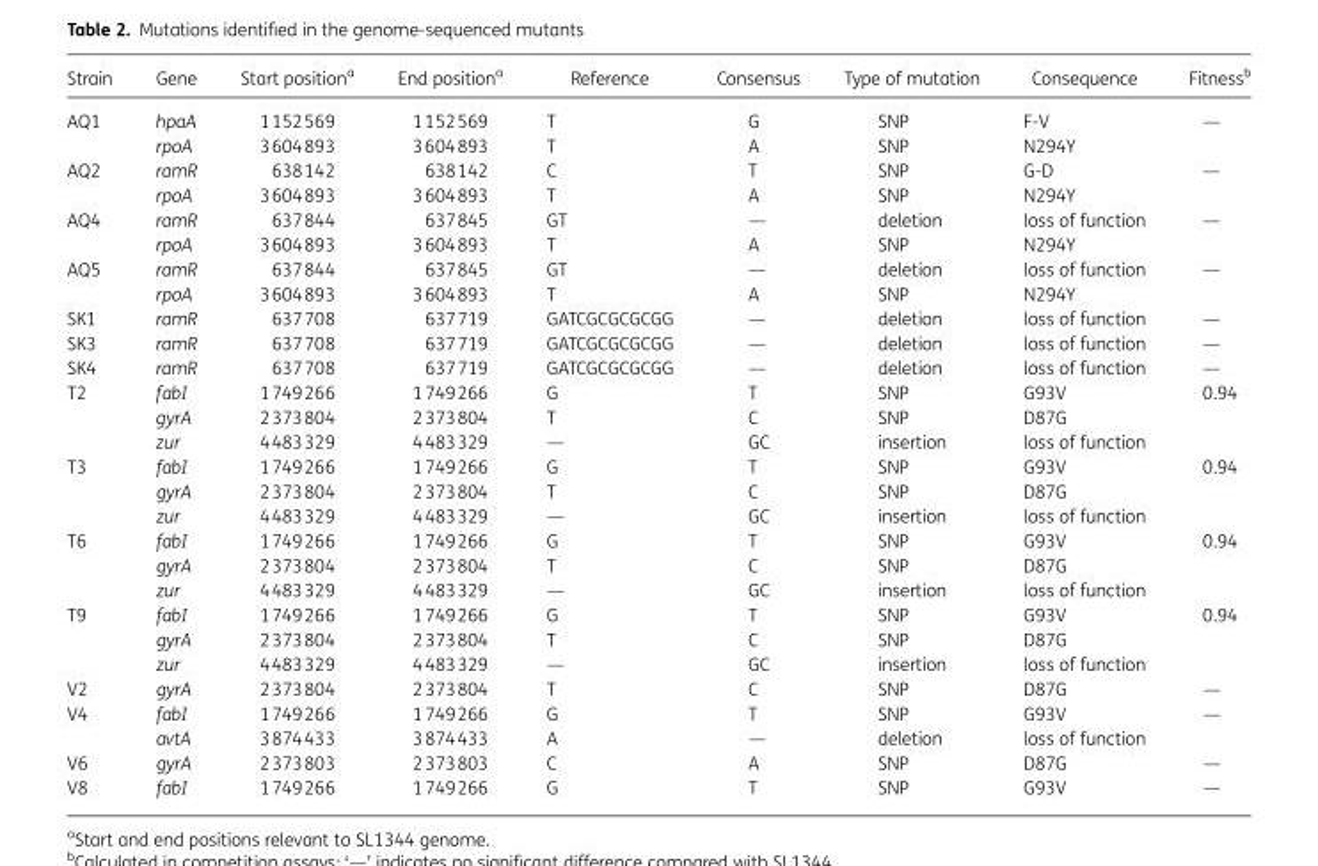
<table><thead><tr><td>Strain</td><td>Gene</td><td>Start position<sup>a</sup></td><td>End position<sup>a</sup></td><td>Reference</td><td>Consensus</td><td>Type of mutation</td><td>Consequence</td><td>Fitness<sup>b</sup></td></tr></thead><tbody><tr><td rowspan="2">AQ1</td><td>hpaA</td><td>1152569</td><td>1152569</td><td>T</td><td>G</td><td>SNP</td><td>F-V</td><td>—</td></tr><tr><td>rpoA</td><td>3604893</td><td>3604893</td><td>T</td><td>A</td><td>SNP</td><td>N294Y</td><td></td></tr><tr><td rowspan="2">AQ2</td><td>ramR</td><td>638142</td><td>638142</td><td>C</td><td>T</td><td>SNP</td><td>G-D</td><td>—</td></tr><tr><td>rpoA</td><td>3604893</td><td>3604893</td><td>T</td><td>A</td><td>SNP</td><td>N294Y</td><td></td></tr><tr><td rowspan="2">AQ4</td><td>ramR</td><td>637844</td><td>637845</td><td>GT</td><td>—</td><td>deletion</td><td>loss of function</td><td>—</td></tr><tr><td>rpoA</td><td>3604893</td><td>3604893</td><td>T</td><td>A</td><td>SNP</td><td>N294Y</td><td></td></tr><tr><td rowspan="2">AQ5</td><td>ramR</td><td>637844</td><td>637845</td><td>GT</td><td>—</td><td>deletion</td><td>loss of function</td><td>—</td></tr><tr><td>rpoA</td><td>3604893</td><td>3604893</td><td>T</td><td>A</td><td>SNP</td><td>N294Y</td><td></td></tr><tr><td>SK1</td><td>ramR</td><td>637708</td><td>637719</td><td>GATCGCGCGCGG</td><td>—</td><td>deletion</td><td>loss of function</td><td>—</td></tr><tr><td>SK3</td><td>ramR</td><td>637708</td><td>637719</td><td>GATCGCGCGCGG</td><td>—</td><td>deletion</td><td>loss of function</td><td>—</td></tr><tr><td>SK4</td><td>ramR</td><td>637708</td><td>637719</td><td>GATCGCGCGCGG</td><td>—</td><td>deletion</td><td>loss of function</td><td>—</td></tr><tr><td rowspan="3">T2</td><td>fabI</td><td>1749266</td><td>1749266</td><td>G</td><td>T</td><td>SNP</td><td>G93V</td><td>0.94</td></tr><tr><td>gyrA</td><td>2373804</td><td>2373804</td><td>T</td><td>C</td><td>SNP</td><td>D87G</td><td></td></tr><tr><td>zur</td><td>4483329</td><td>4483329</td><td>—</td><td>GC</td><td>insertion</td><td>loss of function</td><td></td></tr><tr><td rowspan="3">T3</td><td>fabI</td><td>1749266</td><td>1749266</td><td>G</td><td>T</td><td>SNP</td><td>G93V</td><td>0.94</td></tr><tr><td>gyrA</td><td>2373804</td><td>2373804</td><td>T</td><td>C</td><td>SNP</td><td>D87G</td><td></td></tr><tr><td>zur</td><td>4483329</td><td>4483329</td><td>—</td><td>GC</td><td>insertion</td><td>loss of function</td><td></td></tr><tr><td rowspan="3">T6</td><td>fabI</td><td>1749266</td><td>1749266</td><td>G</td><td>T</td><td>SNP</td><td>G93V</td><td>0.94</td></tr><tr><td>gyrA</td><td>2373804</td><td>2373804</td><td>T</td><td>C</td><td>SNP</td><td>D87G</td><td></td></tr><tr><td>zur</td><td>4483329</td><td>4483329</td><td>—</td><td>GC</td><td>insertion</td><td>loss of function</td><td></td></tr><tr><td rowspan="3">T9</td><td>fabI</td><td>1749266</td><td>1749266</td><td>G</td><td>T</td><td>SNP</td><td>G93V</td><td>0.94</td></tr><tr><td>gyrA</td><td>2373804</td><td>2373804</td><td>T</td><td>C</td><td>SNP</td><td>D87G</td><td></td></tr><tr><td>zur</td><td>4483329</td><td>4483329</td><td>—</td><td>GC</td><td>insertion</td><td>loss of function</td><td></td></tr><tr><td>V2</td><td>gyrA</td><td>2373804</td><td>2373804</td><td>T</td><td>C</td><td>SNP</td><td>D87G</td><td>—</td></tr><tr><td rowspan="2">V4</td><td>fabI</td><td>1749266</td><td>1749266</td><td>G</td><td>T</td><td>SNP</td><td>G93V</td><td>—</td></tr><tr><td>avtA</td><td>3874433</td><td>3874433</td><td>A</td><td>—</td><td>deletion</td><td>loss of function</td><td></td></tr><tr><td>V6</td><td>gyrA</td><td>2373803</td><td>2373803</td><td>C</td><td>A</td><td>SNP</td><td>D87G</td><td>—</td></tr><tr><td>V8</td><td>fabI</td><td>1749266</td><td>1749266</td><td>G</td><td>T</td><td>SNP</td><td>G93V</td><td>—</td></tr></tbody></table>